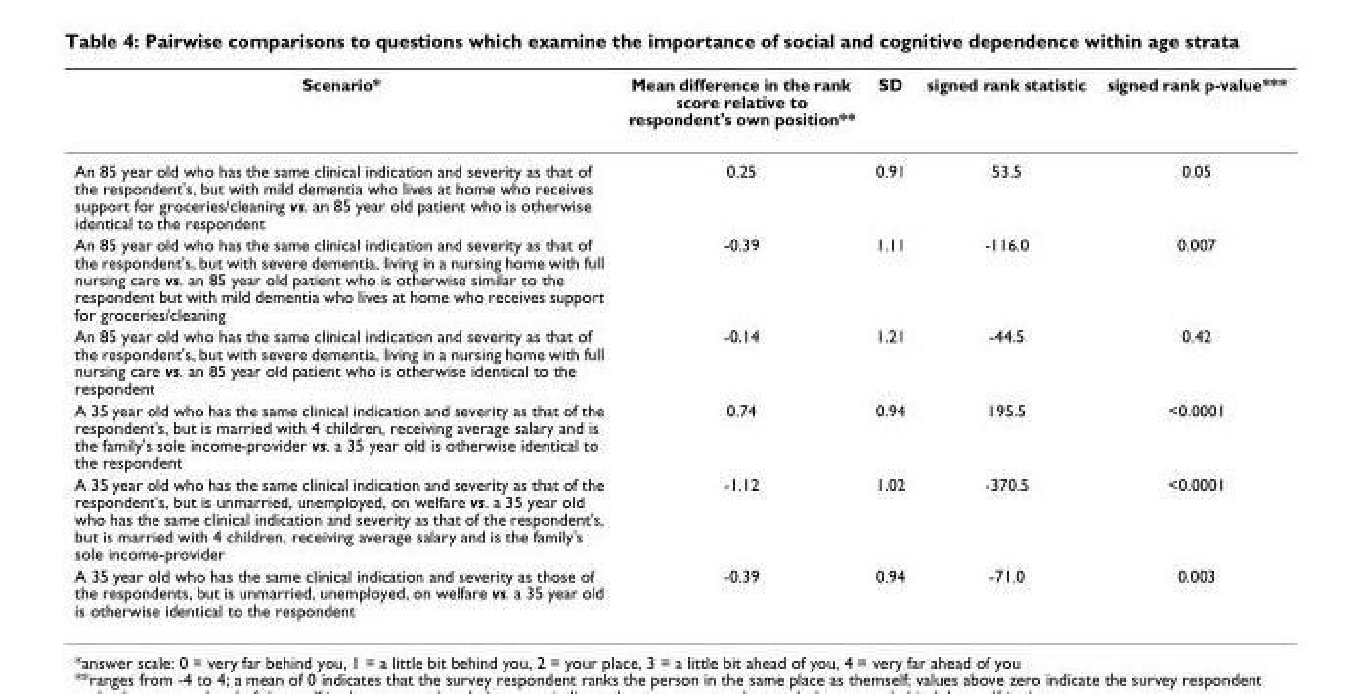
<table><thead><tr><td>Scenario*</td><td>Mean difference in the rank score relative to respondent&#x27;s own position**</td><td>SD</td><td>signed rank statistic</td><td>signed rank p-value***</td></tr></thead><tbody><tr><td>An 85 year old who has the same clinical indication and severity as that of the respondent&#x27;s, but with mild dementia who lives at home who receives support for groceries/cleaning vs. an 85 year old patient who is otherwise identical to the respondent</td><td>0.25</td><td>0.91</td><td>53.5</td><td>0.05</td></tr><tr><td>An 85 year old who has the same clinical indication and severity as that of the respondent&#x27;s, but with severe dementia, living in a nursing home with full nursing care vs. an 85 year old patient who is otherwise similar to the respondent but with mild dementia who lives at home who receives support for groceries/cleaning</td><td>-0.39</td><td>1.11</td><td>-116.0</td><td>0.007</td></tr><tr><td>An 85 year old who has the same clinical indication and severity as that of the respondent&#x27;s, but with severe dementia, living in a nursing home with full nursing care vs. an 85 year old patient who is otherwise identical to the respondent</td><td>-0.14</td><td>1.21</td><td>-44.5</td><td>0.42</td></tr><tr><td>A 35 year old who has the same clinical indication and severity as that of the respondent&#x27;s, but is married with 4 children, receiving average salary and is the family&#x27;s sole income-provider vs. a 35 year old is otherwise identical to the respondent</td><td>0.74</td><td>0.94</td><td>195.5</td><td>&lt;0.0001</td></tr><tr><td>A 35 year old who has the same clinical indication and severity as that of the respondent&#x27;s, but is unmarried, unemployed, on welfare vs. a 35 year old who has the same clinical indication and severity as that of the respondent&#x27;s, but is married with 4 children, receiving average salary and is the family&#x27;s sole income-provider</td><td>-1.12</td><td>1.02</td><td>-370.5</td><td>&lt;0.0001</td></tr><tr><td>A 35 year old who has the same clinical indication and severity as those of the respondents, but is unmarried, unemployed, on welfare vs. a 35 year old is otherwise identical to the respondent</td><td>-0.39</td><td>0.94</td><td>-71.0</td><td>0.003</td></tr></tbody></table>